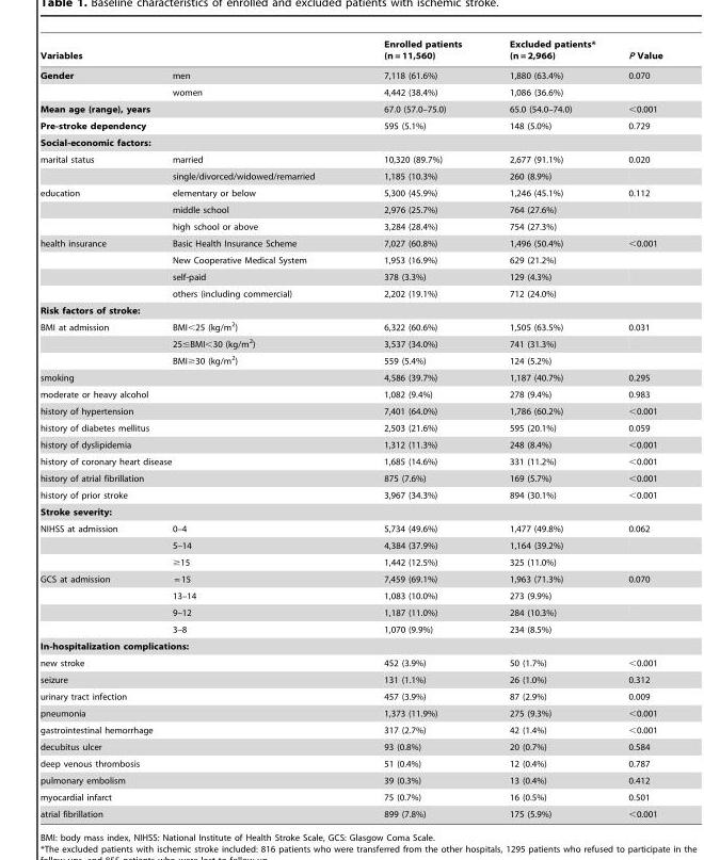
<table><thead><tr><td>Variables</td><td></td><td>Enrolled patients (n = 11,560)</td><td>Excluded patients* (n = 2,966)</td><td>P Value</td></tr></thead><tbody><tr><td rowspan="2">Gender</td><td>men</td><td>7,118 (61.6%)</td><td>1,880 (63.4%)</td><td>0.070</td></tr><tr><td>women</td><td>4,442 (38.4%)</td><td>1,086 (36.6%)</td><td></td></tr><tr><td colspan="2">Mean age (range), years</td><td>67.0 (57.0–75.0)</td><td>65.0 (54.0–74.0)</td><td>&lt;0.001</td></tr><tr><td colspan="2">Pre-stroke dependency</td><td>595 (5.1%)</td><td>148 (5.0%)</td><td>0.729</td></tr><tr><td colspan="5">Social-economic factors:</td></tr><tr><td rowspan="2">marital status</td><td>married</td><td>10,320 (89.7%)</td><td>2,677 (91.1%)</td><td>0.020</td></tr><tr><td>single/divorced/widowed/remarried</td><td>1,185 (10.3%)</td><td>260 (8.9%)</td><td></td></tr><tr><td rowspan="3">education</td><td>elementary or below</td><td>5,300 (45.9%)</td><td>1,246 (45.1%)</td><td>0.112</td></tr><tr><td>middle school</td><td>2,976 (25.7%)</td><td>764 (27.6%)</td><td></td></tr><tr><td>high school or above</td><td>3,284 (28.4%)</td><td>754 (27.3%)</td><td></td></tr><tr><td rowspan="4">health insurance</td><td>Basic Health Insurance Scheme</td><td>7,027 (60.8%)</td><td>1,496 (50.4%)</td><td>&lt;0.001</td></tr><tr><td>New Cooperative Medical System</td><td>1,953 (16.9%)</td><td>629 (21.2%)</td><td></td></tr><tr><td>self-paid</td><td>378 (3.3%)</td><td>129 (4.3%)</td><td></td></tr><tr><td>others (including commercial)</td><td>2,202 (19.1%)</td><td>712 (24.0%)</td><td></td></tr><tr><td colspan="5">Risk factors of stroke:</td></tr><tr><td rowspan="3">BMI at admission</td><td>BMI&lt;25 (kg/m<sup>2</sup>)</td><td>6,322 (60.6%)</td><td>1,505 (63.5%)</td><td>0.031</td></tr><tr><td>25≤BMI&lt;30 (kg/m<sup>2</sup>)</td><td>3,537 (34.0%)</td><td>741 (31.3%)</td><td></td></tr><tr><td>BMI≥30 (kg/m<sup>2</sup>)</td><td>559 (5.4%)</td><td>124 (5.2%)</td><td></td></tr><tr><td colspan="2">smoking</td><td>4,586 (39.7%)</td><td>1,187 (40.7%)</td><td>0.295</td></tr><tr><td colspan="2">moderate or heavy alcohol</td><td>1,082 (9.4%)</td><td>278 (9.4%)</td><td>0.983</td></tr><tr><td colspan="2">history of hypertension</td><td>7,401 (64.0%)</td><td>1,786 (60.2%)</td><td>&lt;0.001</td></tr><tr><td colspan="2">history of diabetes mellitus</td><td>2,503 (21.6%)</td><td>595 (20.1%)</td><td>0.059</td></tr><tr><td colspan="2">history of dyslipidemia</td><td>1,312 (11.3%)</td><td>248 (8.4%)</td><td>&lt;0.001</td></tr><tr><td colspan="2">history of coronary heart disease</td><td>1,685 (14.6%)</td><td>331 (11.2%)</td><td>&lt;0.001</td></tr><tr><td colspan="2">history of atrial fibrillation</td><td>875 (7.6%)</td><td>169 (5.7%)</td><td>&lt;0.001</td></tr><tr><td colspan="2">history of prior stroke</td><td>3,967 (34.3%)</td><td>894 (30.1%)</td><td>&lt;0.001</td></tr><tr><td colspan="5">Stroke severity:</td></tr><tr><td rowspan="3">NIHSS at admission</td><td>0–4</td><td>5,734 (49.6%)</td><td>1,477 (49.8%)</td><td>0.062</td></tr><tr><td>5–14</td><td>4,384 (37.9%)</td><td>1,164 (39.2%)</td><td></td></tr><tr><td>≥15</td><td>1,442 (12.5%)</td><td>325 (11.0%)</td><td></td></tr><tr><td rowspan="4">GCS at admission</td><td>= 15</td><td>7,459 (69.1%)</td><td>1,963 (71.3%)</td><td>0.070</td></tr><tr><td>13–14</td><td>1,083 (10.0%)</td><td>273 (9.9%)</td><td></td></tr><tr><td>9–12</td><td>1,187 (11.0%)</td><td>284 (10.3%)</td><td></td></tr><tr><td>3–8</td><td>1,070 (9.9%)</td><td>234 (8.5%)</td><td></td></tr><tr><td colspan="5">In-hospitalization complications:</td></tr><tr><td colspan="2">new stroke</td><td>452 (3.9%)</td><td>50 (1.7%)</td><td>&lt;0.001</td></tr><tr><td colspan="2">seizure</td><td>131 (1.1%)</td><td>26 (1.0%)</td><td>0.312</td></tr><tr><td colspan="2">urinary tract infection</td><td>457 (3.9%)</td><td>87 (2.9%)</td><td>0.009</td></tr><tr><td colspan="2">pneumonia</td><td>1,373 (11.9%)</td><td>275 (9.3%)</td><td>&lt;0.001</td></tr><tr><td colspan="2">gastrointestinal hemorrhage</td><td>317 (2.7%)</td><td>42 (1.4%)</td><td>&lt;0.001</td></tr><tr><td colspan="2">decubitus ulcer</td><td>93 (0.8%)</td><td>20 (0.7%)</td><td>0.584</td></tr><tr><td colspan="2">deep venous thrombosis</td><td>51 (0.4%)</td><td>12 (0.4%)</td><td>0.787</td></tr><tr><td colspan="2">pulmonary embolism</td><td>39 (0.3%)</td><td>13 (0.4%)</td><td>0.412</td></tr><tr><td colspan="2">myocardial infarct</td><td>75 (0.7%)</td><td>16 (0.5%)</td><td>0.501</td></tr><tr><td colspan="2">atrial fibrillation</td><td>899 (7.8%)</td><td>175 (5.9%)</td><td>&lt;0.001</td></tr></tbody></table>